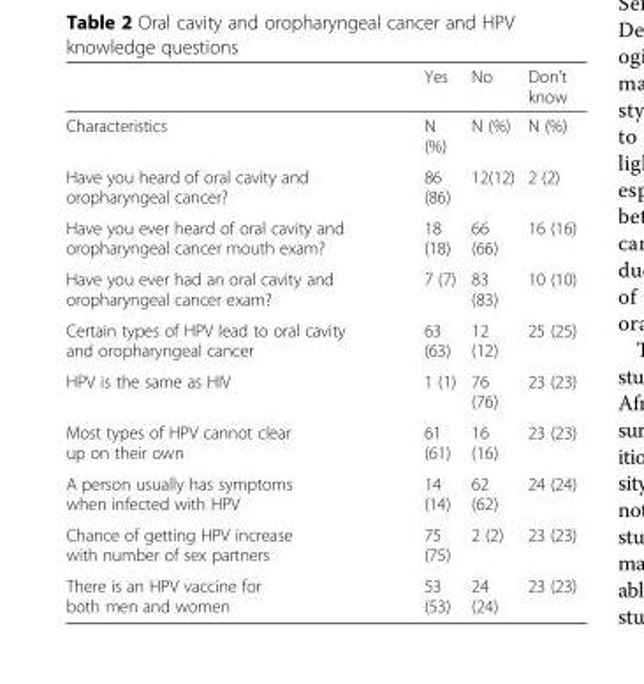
<table><thead><tr><td></td><td>Yes</td><td>No</td><td>Don&#x27;t know</td></tr></thead><tbody><tr><td>Characteristics</td><td>N (%)</td><td>N (%)</td><td>N (%)</td></tr><tr><td>Have you heard of oral cavity and oropharyngeal cancer?</td><td>86 (86)</td><td>12(12)</td><td>2 (2)</td></tr><tr><td>Have you ever heard of oral cavity and oropharyngeal cancer mouth exam?</td><td>18 (18)</td><td>66 (66)</td><td>16 (16)</td></tr><tr><td>Have you ever had an oral cavity and oropharyngeal cancer exam?</td><td>7 (7)</td><td>83 (83)</td><td>10 (10)</td></tr><tr><td>Certain types of HPV lead to oral cavity and oropharyngeal cancer</td><td>63 (63)</td><td>12 (12)</td><td>25 (25)</td></tr><tr><td>HPV is the same as HIV</td><td>1 (1)</td><td>76 (76)</td><td>23 (23)</td></tr><tr><td>Most types of HPV cannot clear up on their own</td><td>61 (61)</td><td>16 (16)</td><td>23 (23)</td></tr><tr><td>A person usually has symptoms when infected with HPV</td><td>14 (14)</td><td>62 (62)</td><td>24 (24)</td></tr><tr><td>Chance of getting HPV increase with number of sex partners</td><td>75 (75)</td><td>2 (2)</td><td>23 (23)</td></tr><tr><td>There is an HPV vaccine for both men and women</td><td>53 (53)</td><td>24 (24)</td><td>23 (23)</td></tr></tbody></table>